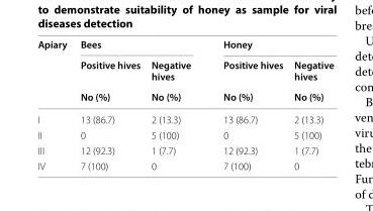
<table><thead><tr><td rowspan="3">Apiary</td><td colspan="2">Bees</td><td colspan="2">Honey</td></tr><tr><td rowspan="2">Positive hives No (%)</td><td rowspan="2">Negative hives No (%)</td><td rowspan="2">Positive hives No (%)</td><td rowspan="2">Negative hives No (%)</td></tr><tr></tr></thead><tbody><tr><td>I</td><td>13 (86.7)</td><td>2 (13.3)</td><td>13 (86.7)</td><td>2 (13.3)</td></tr><tr><td>II</td><td>0</td><td>5 (100)</td><td>0</td><td>5 (100)</td></tr><tr><td>III</td><td>12 (92.3)</td><td>1 (7.7)</td><td>12 (92.3)</td><td>1 (7.7)</td></tr><tr><td>IV</td><td>7 (100)</td><td>0</td><td>7 (100)</td><td>0</td></tr></tbody></table>